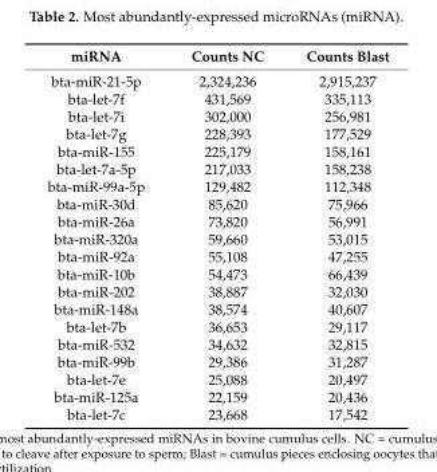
<table><thead><tr><td>miRNA</td><td>Counts NC</td><td>Counts Blast</td></tr></thead><tbody><tr><td>bta-miR-21-5p</td><td>2,324,236</td><td>2,915,237</td></tr><tr><td>bta-let-7f</td><td>431,569</td><td>335,113</td></tr><tr><td>bta-let-7i</td><td>302,000</td><td>256,981</td></tr><tr><td>bta-let-7g</td><td>228,393</td><td>177,529</td></tr><tr><td>bta-miR-155</td><td>225,179</td><td>158,161</td></tr><tr><td>bta-let-7a-5p</td><td>217,033</td><td>158,238</td></tr><tr><td>bta-miR-99a-5p</td><td>129,482</td><td>112,348</td></tr><tr><td>bta-miR-30d</td><td>85,620</td><td>75,966</td></tr><tr><td>bta-miR-26a</td><td>73,820</td><td>56,991</td></tr><tr><td>bta-miR-320a</td><td>59,660</td><td>53,015</td></tr><tr><td>bta-miR-92a</td><td>55,108</td><td>47,255</td></tr><tr><td>bta-miR-10b</td><td>54,473</td><td>66,439</td></tr><tr><td>bta-miR-202</td><td>38,887</td><td>32,030</td></tr><tr><td>bta-miR-148a</td><td>38,574</td><td>40,607</td></tr><tr><td>bta-let-7b</td><td>36,653</td><td>29,117</td></tr><tr><td>bta-miR-532</td><td>34,632</td><td>32,815</td></tr><tr><td>bta-miR-99b</td><td>29,386</td><td>31,287</td></tr><tr><td>bta-let-7e</td><td>25,088</td><td>20,497</td></tr><tr><td>bta-miR-125a</td><td>22,159</td><td>20,436</td></tr><tr><td>bta-let-7c</td><td>23,668</td><td>17,542</td></tr></tbody></table>